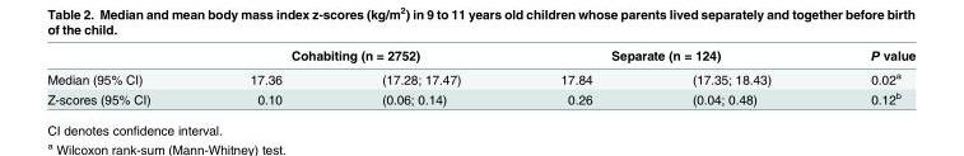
<table><thead><tr><td rowspan="2">Median (95% CI)</td><td colspan="2">Cohabiting (n = 2752)</td><td colspan="2">Separate (n = 124)</td><td rowspan="2">P value 0.02<sup>a</sup></td></tr><tr><td>17.36</td><td>(17.28; 17.47)</td><td>17.84</td><td>(17.35; 18.43)</td></tr></thead><tbody><tr><td>Z-scores (95% CI)</td><td>0.10</td><td>(0.06; 0.14)</td><td>0.26</td><td>(0.04; 0.48)</td><td>0.12<sup>b</sup></td></tr></tbody></table>